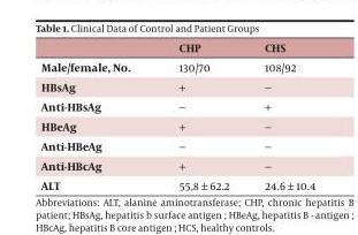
<table><thead><tr><td></td><td>CHP</td><td>CHS</td></tr></thead><tbody><tr><td>Male/female, No.</td><td>130/70</td><td>108/92</td></tr><tr><td>HBsAg</td><td>+</td><td>−</td></tr><tr><td>Anti-HBsAg</td><td>−</td><td>+</td></tr><tr><td>HBeAg</td><td>+</td><td>−</td></tr><tr><td>Anti-HBeAg</td><td>−</td><td>−</td></tr><tr><td>Anti-HBcAg</td><td>+</td><td>−</td></tr><tr><td>ALT</td><td>55.8 ± 62.2</td><td>24.6 ± 10.4</td></tr></tbody></table>